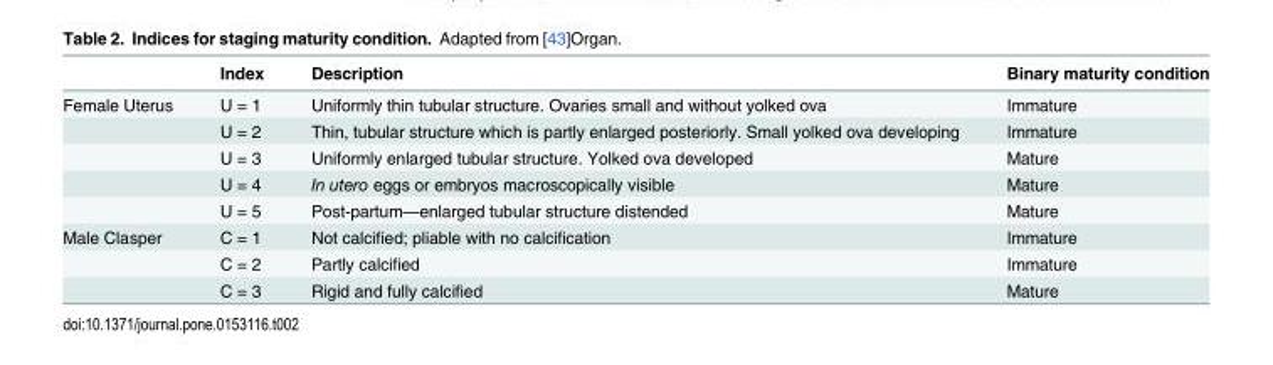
<table><thead><tr><td></td><td>Index</td><td>Description</td><td>Binary maturity condition</td></tr></thead><tbody><tr><td rowspan="5">Female Uterus</td><td>U = 1</td><td>Uniformly thin tubular structure. Ovaries small and without yolked ova</td><td>Immature</td></tr><tr><td>U = 2</td><td>Thin, tubular structure which is partly enlarged posteriorly. Small yolked ova developing</td><td>Immature</td></tr><tr><td>U = 3</td><td>Uniformly enlarged tubular structure. Yolked ova developed</td><td>Mature</td></tr><tr><td>U = 4</td><td>In utero eggs or embryos macroscopically visible</td><td>Mature</td></tr><tr><td>U = 5</td><td>Post-partum—enlarged tubular structure distended</td><td>Mature</td></tr><tr><td rowspan="3">Male Clasper</td><td>C = 1</td><td>Not calcified; pliable with no calcification</td><td>Immature</td></tr><tr><td>C = 2</td><td>Partly calcified</td><td>Immature</td></tr><tr><td>C = 3</td><td>Rigid and fully calcified</td><td>Mature</td></tr></tbody></table>